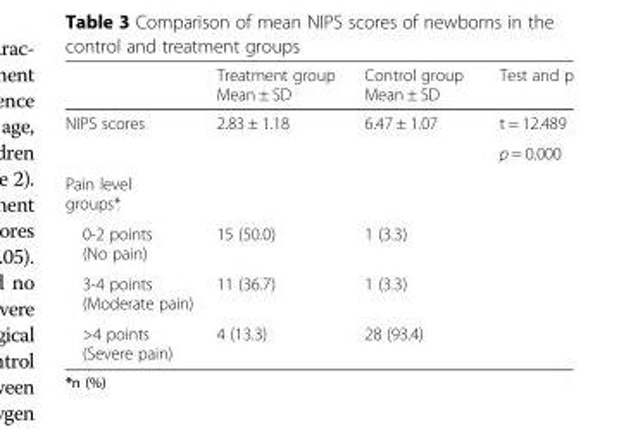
<table><thead><tr><td></td><td>Treatment group Mean ± SD</td><td>Control group Mean ± SD</td><td>Test and p</td></tr></thead><tbody><tr><td rowspan="2">NIPS scores</td><td rowspan="2">2.83 ± 1.18</td><td rowspan="2">6.47 ± 1.07</td><td>t = 12.489</td></tr><tr><td>p = 0.000</td></tr><tr><td colspan="4">Pain level groups*</td></tr><tr><td>0-2 points (No pain)</td><td>15 (50.0)</td><td>1 (3.3)</td><td></td></tr><tr><td>3-4 points (Moderate pain)</td><td>11 (36.7)</td><td>1 (3.3)</td><td></td></tr><tr><td>&gt;4 points (Severe pain)</td><td>4 (13.3)</td><td>28 (93.4)</td><td></td></tr></tbody></table>